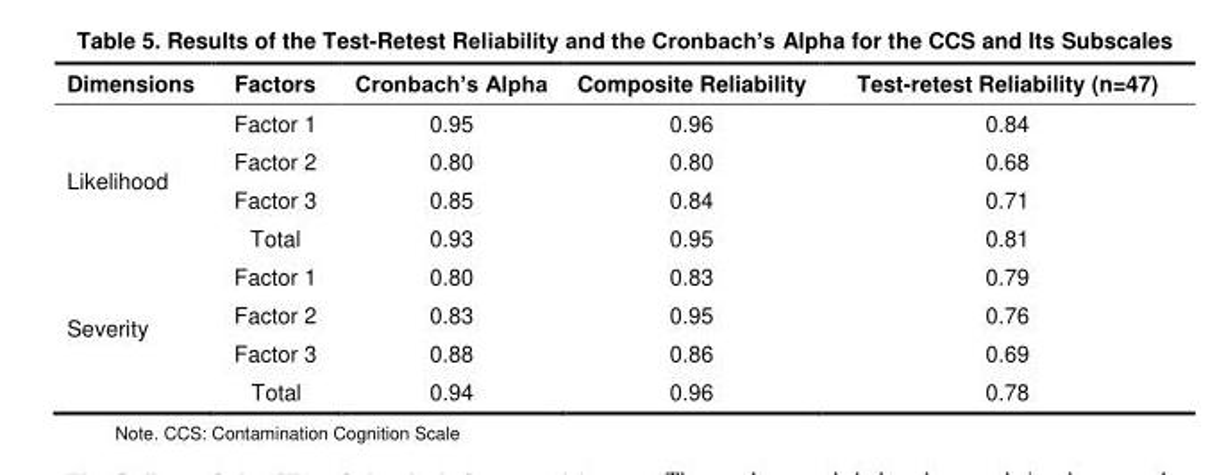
<table><thead><tr><td>Dimensions</td><td>Factors</td><td>Cronbach’s Alpha</td><td>Composite Reliability</td><td>Test-retest Reliability (n=47)</td></tr></thead><tbody><tr><td rowspan="4">Likelihood</td><td>Factor 1</td><td>0.95</td><td>0.96</td><td>0.84</td></tr><tr><td>Factor 2</td><td>0.80</td><td>0.80</td><td>0.68</td></tr><tr><td>Factor 3</td><td>0.85</td><td>0.84</td><td>0.71</td></tr><tr><td>Total</td><td>0.93</td><td>0.95</td><td>0.81</td></tr><tr><td rowspan="4">Severity</td><td>Factor 1</td><td>0.80</td><td>0.83</td><td>0.79</td></tr><tr><td>Factor 2</td><td>0.83</td><td>0.95</td><td>0.76</td></tr><tr><td>Factor 3</td><td>0.88</td><td>0.86</td><td>0.69</td></tr><tr><td>Total</td><td>0.94</td><td>0.96</td><td>0.78</td></tr></tbody></table>